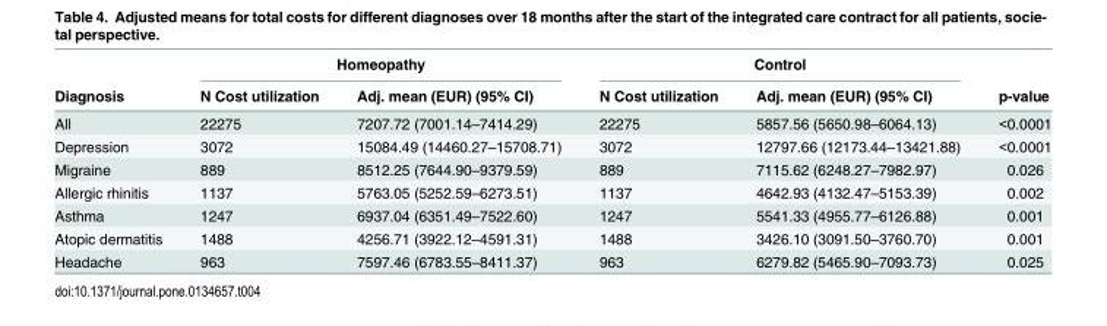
<table><thead><tr><td rowspan="2">Diagnosis</td><td colspan="2">Homeopathy</td><td colspan="2">Control</td><td rowspan="2">p-value</td></tr><tr><td>N Cost utilization</td><td>Adj. mean (EUR) (95% CI)</td><td>N Cost utilization</td><td>Adj. mean (EUR) (95% CI)</td></tr></thead><tbody><tr><td>All</td><td>22275</td><td>7207.72 (7001.14–7414.29)</td><td>22275</td><td>5857.56 (5650.98–6064.13)</td><td>&lt;0.0001</td></tr><tr><td>Depression</td><td>3072</td><td>15084.49 (14460.27–15708.71)</td><td>3072</td><td>12797.66 (12173.44–13421.88)</td><td>&lt;0.0001</td></tr><tr><td>Migraine</td><td>889</td><td>8512.25 (7644.90–9379.59)</td><td>889</td><td>7115.62 (6248.27–7982.97)</td><td>0.026</td></tr><tr><td>Allergic rhinitis</td><td>1137</td><td>5763.05 (5252.59–6273.51)</td><td>1137</td><td>4642.93 (4132.47–5153.39)</td><td>0.002</td></tr><tr><td>Asthma</td><td>1247</td><td>6937.04 (6351.49–7522.60)</td><td>1247</td><td>5541.33 (4955.77–6126.88)</td><td>0.001</td></tr><tr><td>Atopic dermatitis</td><td>1488</td><td>4256.71 (3922.12–4591.31)</td><td>1488</td><td>3426.10 (3091.50–3760.70)</td><td>0.001</td></tr><tr><td>Headache</td><td>963</td><td>7597.46 (6783.55–8411.37)</td><td>963</td><td>6279.82 (5465.90–7093.73)</td><td>0.025</td></tr></tbody></table>